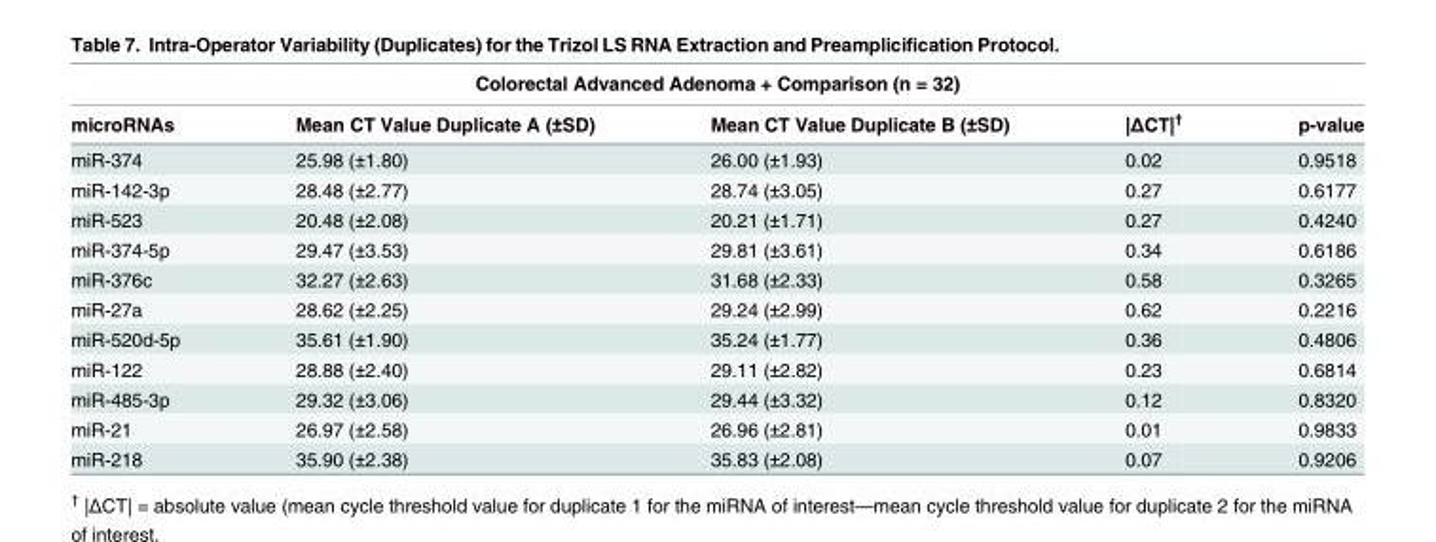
<table><thead><tr><td colspan="5">Colorectal Advanced Adenoma + Comparison (n = 32)</td></tr><tr><td>microRNAs</td><td>Mean CT Value Duplicate A (±SD)</td><td>Mean CT Value Duplicate B (±SD)</td><td>|ΔCT|<sup>†</sup></td><td>p-value</td></tr></thead><tbody><tr><td>miR-374</td><td>25.98 (±1.80)</td><td>26.00 (±1.93)</td><td>0.02</td><td>0.9518</td></tr><tr><td>miR-142-3p</td><td>28.48 (±2.77)</td><td>28.74 (±3.05)</td><td>0.27</td><td>0.6177</td></tr><tr><td>miR-523</td><td>20.48 (±2.08)</td><td>20.21 (±1.71)</td><td>0.27</td><td>0.4240</td></tr><tr><td>miR-374-5p</td><td>29.47 (±3.53)</td><td>29.81 (±3.61)</td><td>0.34</td><td>0.6186</td></tr><tr><td>miR-376c</td><td>32.27 (±2.63)</td><td>31.68 (±2.33)</td><td>0.58</td><td>0.3265</td></tr><tr><td>miR-27a</td><td>28.62 (±2.25)</td><td>29.24 (±2.99)</td><td>0.62</td><td>0.2216</td></tr><tr><td>miR-520d-5p</td><td>35.61 (±1.90)</td><td>35.24 (±1.77)</td><td>0.36</td><td>0.4806</td></tr><tr><td>miR-122</td><td>28.88 (±2.40)</td><td>29.11 (±2.82)</td><td>0.23</td><td>0.6814</td></tr><tr><td>miR-485-3p</td><td>29.32 (±3.06)</td><td>29.44 (±3.32)</td><td>0.12</td><td>0.8320</td></tr><tr><td>miR-21</td><td>26.97 (±2.58)</td><td>26.96 (±2.81)</td><td>0.01</td><td>0.9833</td></tr><tr><td>miR-218</td><td>35.90 (±2.38)</td><td>35.83 (±2.08)</td><td>0.07</td><td>0.9206</td></tr></tbody></table>